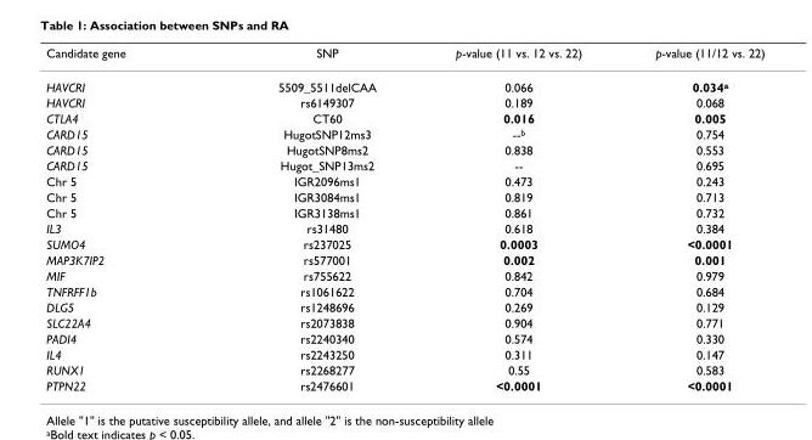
<table><thead><tr><td>Candidate gene</td><td>SNP</td><td>p-value (11 vs. 12 vs. 22)</td><td>p-value (11/12 vs. 22)</td></tr></thead><tbody><tr><td>HAVCRI</td><td>5509_5511delCAA</td><td>0.066</td><td>0.034<sup>a</sup></td></tr><tr><td>HAVCRI</td><td>rs6149307</td><td>0.189</td><td>0.068</td></tr><tr><td>CTLA4</td><td>CT60</td><td>0.016</td><td>0.005</td></tr><tr><td>CARD15</td><td>HugotSNP12ms3</td><td>--<sup>b</sup></td><td>0.754</td></tr><tr><td>CARD15</td><td>HugotSNP8ms2</td><td>0.838</td><td>0.553</td></tr><tr><td>CARD15</td><td>Hugot_SNP13ms2</td><td>--</td><td>0.695</td></tr><tr><td>Chr 5</td><td>IGR2096ms1</td><td>0.473</td><td>0.243</td></tr><tr><td>Chr 5</td><td>IGR3084ms1</td><td>0.819</td><td>0.713</td></tr><tr><td>Chr 5</td><td>IGR3138ms1</td><td>0.861</td><td>0.732</td></tr><tr><td>IL3</td><td>rs31480</td><td>0.618</td><td>0.384</td></tr><tr><td>SUMO4</td><td>rs237025</td><td>0.0003</td><td>&lt;0.0001</td></tr><tr><td>MAP3K7IP2</td><td>rs577001</td><td>0.002</td><td>0.001</td></tr><tr><td>MIF</td><td>rs755622</td><td>0.842</td><td>0.979</td></tr><tr><td>TNFRFF1b</td><td>rs1061622</td><td>0.704</td><td>0.684</td></tr><tr><td>DLG5</td><td>rs1248696</td><td>0.269</td><td>0.129</td></tr><tr><td>SLC22A4</td><td>rs2073838</td><td>0.904</td><td>0.771</td></tr><tr><td>PADI4</td><td>rs2240340</td><td>0.574</td><td>0.330</td></tr><tr><td>IL4</td><td>rs2243250</td><td>0.311</td><td>0.147</td></tr><tr><td>RUNX1</td><td>rs2268277</td><td>0.55</td><td>0.583</td></tr><tr><td>PTPN22</td><td>rs2476601</td><td>&lt;0.0001</td><td>&lt;0.0001</td></tr></tbody></table>